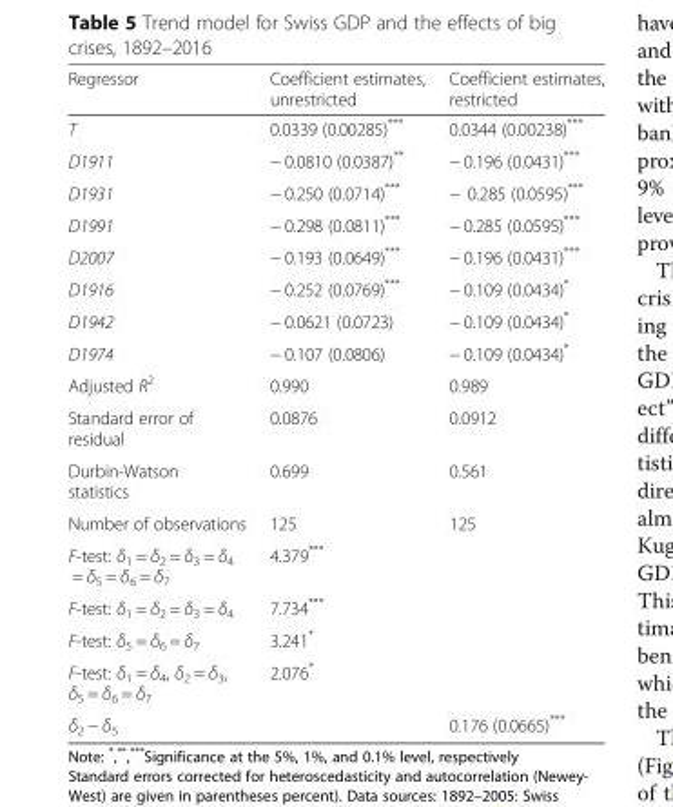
<table><thead><tr><td>Regressor</td><td>Coefficient estimates, unrestricted</td><td>Coefficient estimates, restricted</td></tr></thead><tbody><tr><td>T</td><td>0.0339 (0.00285)***</td><td>0.0344 (0.00238)***</td></tr><tr><td>D1911</td><td>− 0.0810 (0.0387)**</td><td>− 0.196 (0.0431)***</td></tr><tr><td>D1931</td><td>− 0.250 (0.0714)***</td><td>− 0.285 (0.0595)***</td></tr><tr><td>D1991</td><td>− 0.298 (0.0811)***</td><td>− 0.285 (0.0595)***</td></tr><tr><td>D2007</td><td>− 0.193 (0.0649)***</td><td>− 0.196 (0.0431)***</td></tr><tr><td>D1916</td><td>− 0.252 (0.0769)***</td><td>− 0.109 (0.0434)*</td></tr><tr><td>D1942</td><td>− 0.0621 (0.0723)</td><td>− 0.109 (0.0434)*</td></tr><tr><td>D1974</td><td>− 0.107 (0.0806)</td><td>− 0.109 (0.0434)*</td></tr><tr><td>Adjusted R<sup>2</sup></td><td>0.990</td><td>0.989</td></tr><tr><td>Standard error of residual</td><td>0.0876</td><td>0.0912</td></tr><tr><td>Durbin-Watson statistics</td><td>0.699</td><td>0.561</td></tr><tr><td>Number of observations</td><td>125</td><td>125</td></tr><tr><td>F-test: δ<sub>1</sub> = δ<sub>2</sub> = δ<sub>3</sub> = δ<sub>4</sub> = δ<sub>5</sub> = δ<sub>6</sub> = δ<sub>7</sub></td><td>4.379***</td><td></td></tr><tr><td>F-test: δ<sub>1</sub> = δ<sub>2</sub> = δ<sub>3</sub> = δ<sub>4</sub></td><td>7.734***</td><td></td></tr><tr><td>F-test: δ<sub>5</sub> = δ<sub>6</sub> = δ<sub>7</sub></td><td>3.241*</td><td></td></tr><tr><td>F-test: δ<sub>1</sub> = δ<sub>4</sub>, δ<sub>2</sub> = δ<sub>3</sub>, δ<sub>5</sub> = δ<sub>6</sub> = δ<sub>7</sub></td><td>2.076*</td><td></td></tr><tr><td>δ<sub>2</sub> − δ<sub>5</sub></td><td></td><td>0.176 (0.0665)***</td></tr></tbody></table>